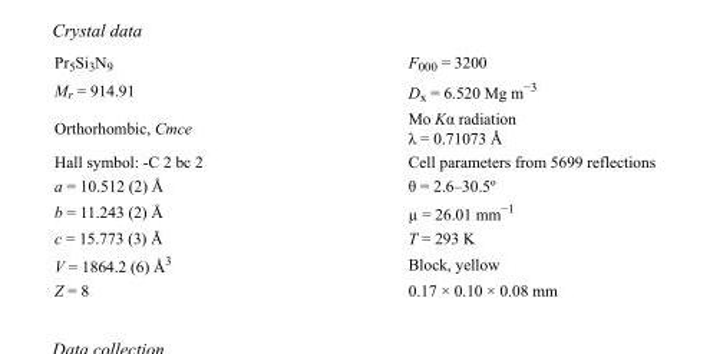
<table><tbody><tr><td>Pr<sub>5</sub>Si<sub>3</sub>N<sub>9</sub></td><td>F000 = 3200</td></tr><tr><td>M<sub>r</sub> = 914.91</td><td>D<sub>x</sub> = 6.520 Mg m<sup>−3</sup></td></tr><tr><td>Orthorhombic, Cmce</td><td>Mo Kα radiation λ = 0.71073 Å</td></tr><tr><td>Hall symbol: -C 2 bc 2</td><td>Cell parameters from 5699 reflections</td></tr><tr><td>a = 10.512 (2) Å</td><td>θ = 2.6–30.5º</td></tr><tr><td>b = 11.243 (2) Å</td><td>µ = 26.01 mm<sup>−1</sup></td></tr><tr><td>c = 15.773 (3) Å</td><td>T = 293 K</td></tr><tr><td>V = 1864.2 (6) Å<sup>3</sup></td><td>Block, yellow</td></tr><tr><td>Z = 8</td><td>0.17 × 0.10 × 0.08 mm</td></tr></tbody></table>